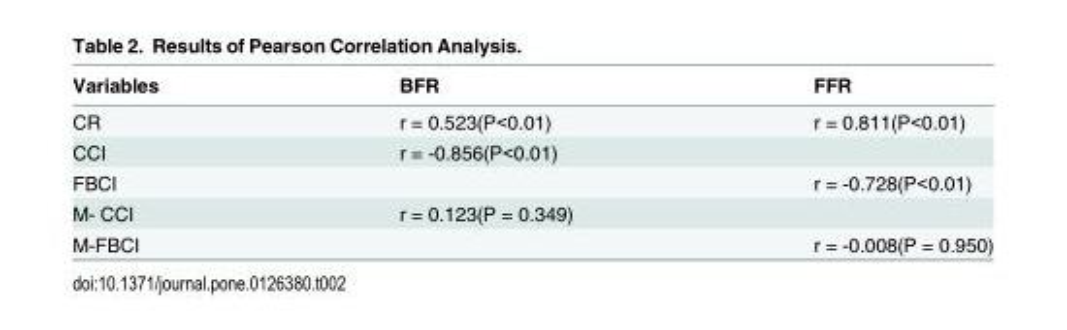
<table><thead><tr><td>Variables</td><td>BFR</td><td>FFR</td></tr></thead><tbody><tr><td>CR</td><td>r = 0.523(P&lt;0.01)</td><td>r = 0.811(P&lt;0.01)</td></tr><tr><td>CCI</td><td>r = -0.856(P&lt;0.01)</td><td></td></tr><tr><td>FBCI</td><td></td><td>r = -0.728(P&lt;0.01)</td></tr><tr><td>M- CCI</td><td>r = 0.123(P = 0.349)</td><td></td></tr><tr><td>M-FBCI</td><td></td><td>r = -0.008(P = 0.950)</td></tr></tbody></table>